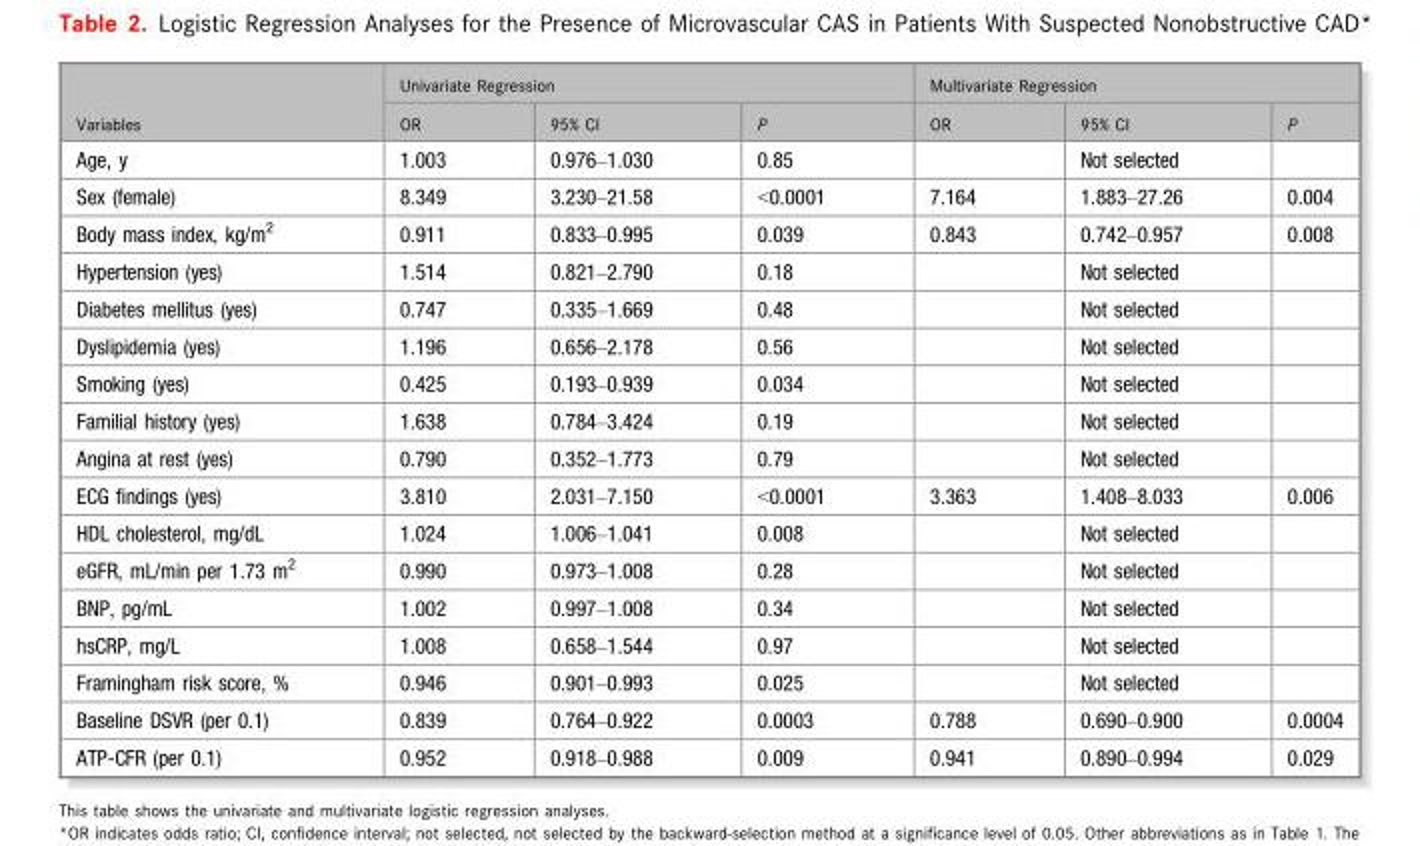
<table><thead><tr><td rowspan="2">Variables</td><td colspan="3">Univariate Regression</td><td colspan="3">Multivariate Regression</td></tr><tr><td>OR</td><td>95% CI</td><td>P</td><td>OR</td><td>95% CI</td><td>P</td></tr></thead><tbody><tr><td>Age, y</td><td>1.003</td><td>0.976–1.030</td><td>0.85</td><td></td><td>Not selected</td><td></td></tr><tr><td>Sex (female)</td><td>8.349</td><td>3.230–21.58</td><td>&lt;0.0001</td><td>7.164</td><td>1.883–27.26</td><td>0.004</td></tr><tr><td>Body mass index, kg/m<sup>2</sup></td><td>0.911</td><td>0.833–0.995</td><td>0.039</td><td>0.843</td><td>0.742–0.957</td><td>0.008</td></tr><tr><td>Hypertension (yes)</td><td>1.514</td><td>0.821–2.790</td><td>0.18</td><td></td><td>Not selected</td><td></td></tr><tr><td>Diabetes mellitus (yes)</td><td>0.747</td><td>0.335–1.669</td><td>0.48</td><td></td><td>Not selected</td><td></td></tr><tr><td>Dyslipidemia (yes)</td><td>1.196</td><td>0.656–2.178</td><td>0.56</td><td></td><td>Not selected</td><td></td></tr><tr><td>Smoking (yes)</td><td>0.425</td><td>0.193–0.939</td><td>0.034</td><td></td><td>Not selected</td><td></td></tr><tr><td>Familial history (yes)</td><td>1.638</td><td>0.784–3.424</td><td>0.19</td><td></td><td>Not selected</td><td></td></tr><tr><td>Angina at rest (yes)</td><td>0.790</td><td>0.352–1.773</td><td>0.79</td><td></td><td>Not selected</td><td></td></tr><tr><td>ECG findings (yes)</td><td>3.810</td><td>2.031–7.150</td><td>&lt;0.0001</td><td>3.363</td><td>1.408–8.033</td><td>0.006</td></tr><tr><td>HDL cholesterol, mg/dL</td><td>1.024</td><td>1.006–1.041</td><td>0.008</td><td></td><td>Not selected</td><td></td></tr><tr><td>eGFR, mL/min per 1.73 m<sup>2</sup></td><td>0.990</td><td>0.973–1.008</td><td>0.28</td><td></td><td>Not selected</td><td></td></tr><tr><td>BNP, pg/mL</td><td>1.002</td><td>0.997–1.008</td><td>0.34</td><td></td><td>Not selected</td><td></td></tr><tr><td>hsCRP, mg/L</td><td>1.008</td><td>0.658–1.544</td><td>0.97</td><td></td><td>Not selected</td><td></td></tr><tr><td>Framingham risk score, %</td><td>0.946</td><td>0.901–0.993</td><td>0.025</td><td></td><td>Not selected</td><td></td></tr><tr><td>Baseline DSVR (per 0.1)</td><td>0.839</td><td>0.764–0.922</td><td>0.0003</td><td>0.788</td><td>0.690–0.900</td><td>0.0004</td></tr><tr><td>ATP-CFR (per 0.1)</td><td>0.952</td><td>0.918–0.988</td><td>0.009</td><td>0.941</td><td>0.890–0.994</td><td>0.029</td></tr></tbody></table>